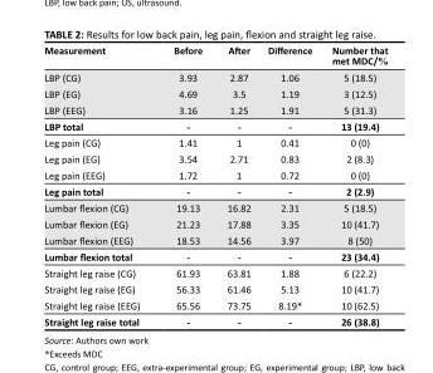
<table><thead><tr><td>Measurement</td><td>Before</td><td>After</td><td>Difference</td><td>Number that met MDC/%</td></tr></thead><tbody><tr><td>LBP (CG)</td><td>3.93</td><td>2.87</td><td>1.06</td><td>5 (18.5)</td></tr><tr><td>LBP (EG)</td><td>4.69</td><td>3.5</td><td>1.19</td><td>3 (12.5)</td></tr><tr><td>LBP (EEG)</td><td>3.16</td><td>1.25</td><td>1.91</td><td>5 (31.3)</td></tr><tr><td>LBP total</td><td>-</td><td>-</td><td>-</td><td>13 (19.4)</td></tr><tr><td>Leg pain (CG)</td><td>1.41</td><td>1</td><td>0.41</td><td>0 (0)</td></tr><tr><td>Leg pain (EG)</td><td>3.54</td><td>2.71</td><td>0.83</td><td>2 (8.3)</td></tr><tr><td>Leg pain (EEG)</td><td>1.72</td><td>1</td><td>0.72</td><td>0 (0)</td></tr><tr><td>Leg pain total</td><td>-</td><td>-</td><td>-</td><td>2 (2.9)</td></tr><tr><td>Lumbar flexion (CG)</td><td>19.13</td><td>16.82</td><td>2.31</td><td>5 (18.5)</td></tr><tr><td>Lumbar flexion (EG)</td><td>21.23</td><td>17.88</td><td>3.35</td><td>10 (41.7)</td></tr><tr><td>Lumbar flexion (EEG)</td><td>18.53</td><td>14.56</td><td>3.97</td><td>8 (50)</td></tr><tr><td>Lumbar flexion total</td><td>-</td><td>-</td><td>-</td><td>23 (34.4)</td></tr><tr><td>Straight leg raise (CG)</td><td>61.93</td><td>63.81</td><td>1.88</td><td>6 (22.2)</td></tr><tr><td>Straight leg raise (EG)</td><td>56.33</td><td>61.46</td><td>5.13</td><td>10 (41.7)</td></tr><tr><td>Straight leg raise (EEG)</td><td>65.56</td><td>73.75</td><td>8.19*</td><td>10 (62.5)</td></tr><tr><td>Straight leg raise total</td><td>-</td><td>-</td><td>-</td><td>26 (38.8)</td></tr></tbody></table>